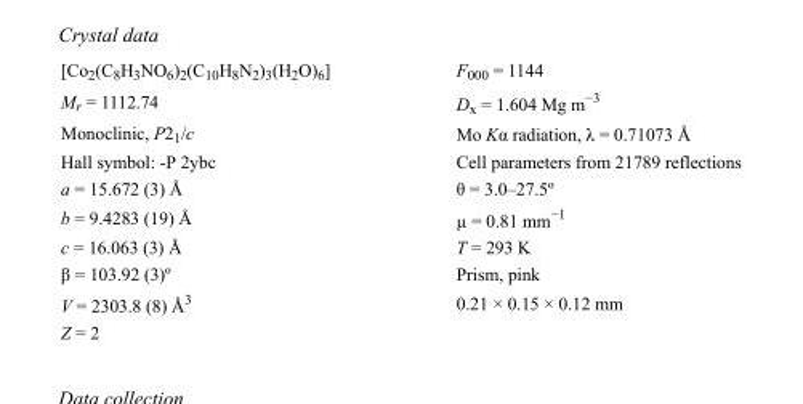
<table><tbody><tr><td>[Co<sub>2</sub>(C<sub>8</sub>H<sub>3</sub>NO<sub>6</sub>)<sub>2</sub>(C<sub>10</sub>H<sub>8</sub>N<sub>2</sub>)<sub>3</sub>(H<sub>2</sub>O)<sub>6</sub>]</td><td>F000 = 1144</td></tr><tr><td>M<sub>r</sub> = 1112.74</td><td>D<sub>x</sub> = 1.604 Mg m<sup>−3</sup></td></tr><tr><td>Monoclinic, P2<sub>1</sub>/c</td><td>Mo Kα radiation, λ = 0.71073 Å</td></tr><tr><td>Hall symbol: -P 2ybc</td><td>Cell parameters from 21789 reflections</td></tr><tr><td>a = 15.672 (3) Å</td><td>θ = 3.0–27.5º</td></tr><tr><td>b = 9.4283 (19) Å</td><td>µ = 0.81 mm<sup>−1</sup></td></tr><tr><td>c = 16.063 (3) Å</td><td>T = 293 K</td></tr><tr><td>β = 103.92 (3)º</td><td>Prism, pink</td></tr><tr><td>V = 2303.8 (8) Å<sup>3</sup></td><td>0.21 × 0.15 × 0.12 mm</td></tr><tr><td>Z = 2</td><td></td></tr></tbody></table>